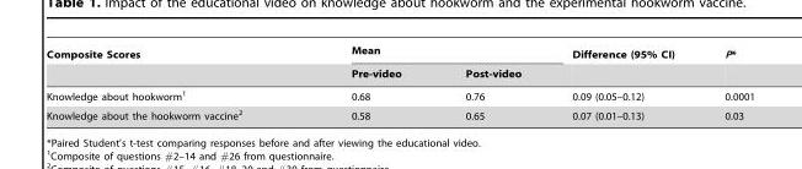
<table><thead><tr><td rowspan="2">Composite Scores</td><td colspan="2">Mean</td><td rowspan="2">Difference (95% CI)</td><td rowspan="2">P*</td></tr><tr><td>Pre-video</td><td>Post-video</td></tr></thead><tbody><tr><td>Knowledge about hookworm<sup>1</sup></td><td>0.68</td><td>0.76</td><td>0.09 (0.05–0.12)</td><td>0.0001</td></tr><tr><td>Knowledge about the hookworm vaccine<sup>2</sup></td><td>0.58</td><td>0.65</td><td>0.07 (0.01–0.13)</td><td>0.03</td></tr></tbody></table>